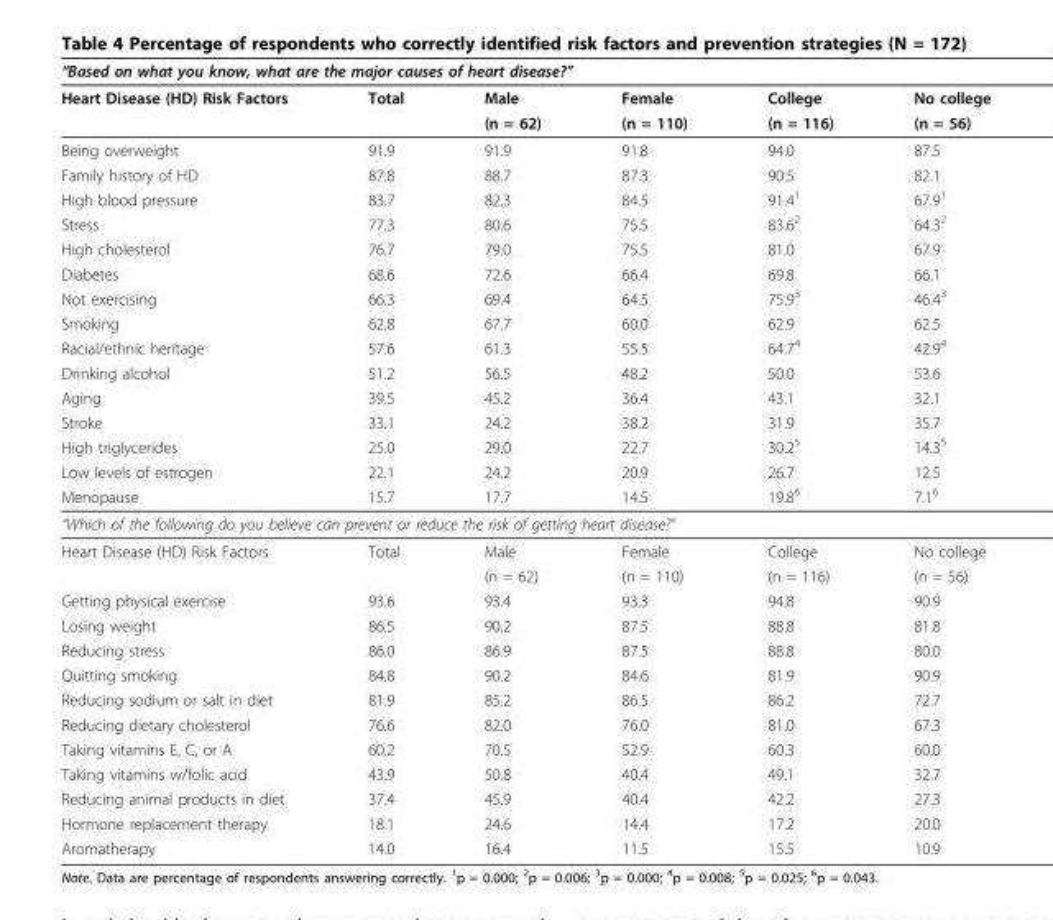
<table><thead><tr><td colspan="6">“Based on what you know, what are the major causes of heart disease?”</td></tr><tr><td>Heart Disease (HD) Risk Factors</td><td>Total</td><td>Male</td><td>Female</td><td>College</td><td>No college</td></tr></thead><tbody><tr><td></td><td></td><td>(n = 62)</td><td>(n = 110)</td><td>(n = 116)</td><td>(n = 56)</td></tr><tr><td>Being overweight</td><td>91.9</td><td>91.9</td><td>91.8</td><td>94.0</td><td>87.5</td></tr><tr><td>Family history of HD</td><td>87.8</td><td>88.7</td><td>87.3</td><td>90.5</td><td>82.1</td></tr><tr><td>High blood pressure</td><td>83.7</td><td>82.3</td><td>84.5</td><td>91.4<sup>1</sup></td><td>67.9<sup>1</sup></td></tr><tr><td>Stress</td><td>77.3</td><td>80.6</td><td>75.5</td><td>83.6<sup>2</sup></td><td>64.3<sup>2</sup></td></tr><tr><td>High cholesterol</td><td>76.7</td><td>79.0</td><td>75.5</td><td>81.0</td><td>67.9</td></tr><tr><td>Diabetes</td><td>68.6</td><td>72.6</td><td>66.4</td><td>69.8</td><td>66.1</td></tr><tr><td>Not exercising</td><td>66.3</td><td>69.4</td><td>64.5</td><td>75.9<sup>3</sup></td><td>46.4<sup>3</sup></td></tr><tr><td>Smoking</td><td>62.8</td><td>67.7</td><td>60.0</td><td>62.9</td><td>62.5</td></tr><tr><td>Racial/ethnic heritage</td><td>57.6</td><td>61.3</td><td>55.5</td><td>64.7<sup>4</sup></td><td>42.9<sup>4</sup></td></tr><tr><td>Drinking alcohol</td><td>51.2</td><td>56.5</td><td>48.2</td><td>50.0</td><td>53.6</td></tr><tr><td>Aging</td><td>39.5</td><td>45.2</td><td>36.4</td><td>43.1</td><td>32.1</td></tr><tr><td>Stroke</td><td>33.1</td><td>24.2</td><td>38.2</td><td>31.9</td><td>35.7</td></tr><tr><td>High triglycerides</td><td>25.0</td><td>29.0</td><td>22.7</td><td>30.2<sup>5</sup></td><td>14.3<sup>5</sup></td></tr><tr><td>Low levels of estrogen</td><td>22.1</td><td>24.2</td><td>20.9</td><td>26.7</td><td>12.5</td></tr><tr><td>Menopause</td><td>15.7</td><td>17.7</td><td>14.5</td><td>19.8<sup>6</sup></td><td>7.1<sup>6</sup></td></tr><tr><td colspan="6">“Which of the following do you believe can prevent or reduce the risk of getting heart disease?”</td></tr><tr><td rowspan="2">Heart Disease (HD) Risk Factors</td><td>Total</td><td>Male</td><td>Female</td><td>College</td><td>No college</td></tr><tr><td></td><td>(n = 62)</td><td>(n = 110)</td><td>(n = 116)</td><td>(n = 56)</td></tr><tr><td>Getting physical exercise</td><td>93.6</td><td>93.4</td><td>93.3</td><td>94.8</td><td>90.9</td></tr><tr><td>Losing weight</td><td>86.5</td><td>90.2</td><td>87.5</td><td>88.8</td><td>81.8</td></tr><tr><td>Reducing stress</td><td>86.0</td><td>86.9</td><td>87.5</td><td>88.8</td><td>80.0</td></tr><tr><td>Quitting smoking</td><td>84.8</td><td>90.2</td><td>84.6</td><td>81.9</td><td>90.9</td></tr><tr><td>Reducing sodium or salt in diet</td><td>81.9</td><td>85.2</td><td>86.5</td><td>86.2</td><td>72.7</td></tr><tr><td>Reducing dietary cholesterol</td><td>76.6</td><td>82.0</td><td>76.0</td><td>81.0</td><td>67.3</td></tr><tr><td>Taking vitamins E, C, or A</td><td>60.2</td><td>70.5</td><td>52.9</td><td>60.3</td><td>60.0</td></tr><tr><td>Taking vitamins w/folic acid</td><td>43.9</td><td>50.8</td><td>40.4</td><td>49.1</td><td>32.7</td></tr><tr><td>Reducing animal products in diet</td><td>37.4</td><td>45.9</td><td>40.4</td><td>42.2</td><td>27.3</td></tr><tr><td>Hormone replacement therapy</td><td>18.1</td><td>24.6</td><td>14.4</td><td>17.2</td><td>20.0</td></tr><tr><td>Aromatherapy</td><td>14.0</td><td>16.4</td><td>11.5</td><td>15.5</td><td>10.9</td></tr></tbody></table>